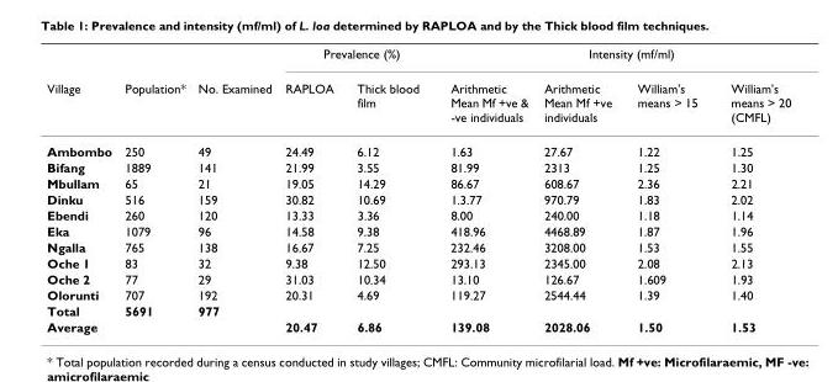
<table><thead><tr><td rowspan="2">Village</td><td rowspan="2">Population*</td><td rowspan="2">No. Examined</td><td colspan="2">Prevalence (%)</td><td colspan="4">Intensity (mf/ml)</td></tr><tr><td>RAPLOA</td><td>Thick blood film</td><td>Arithmetic Mean Mf +ve &amp; -ve individuals</td><td>Arithmetic Mean Mf +ve individuals</td><td>William&#x27;s means &gt; 15</td><td>William&#x27;s means &gt; 20 (CMFL)</td></tr></thead><tbody><tr><td>Ambombo</td><td>250</td><td>49</td><td>24.49</td><td>6.12</td><td>1.63</td><td>27.67</td><td>1.22</td><td>1.25</td></tr><tr><td>Bifang</td><td>1889</td><td>141</td><td>21.99</td><td>3.55</td><td>81.99</td><td>2313</td><td>1.25</td><td>1.30</td></tr><tr><td>Mbullam</td><td>65</td><td>21</td><td>19.05</td><td>14.29</td><td>86.67</td><td>608.67</td><td>2.36</td><td>2.21</td></tr><tr><td>Dinku</td><td>516</td><td>159</td><td>30.82</td><td>10.69</td><td>1.3.77</td><td>970.79</td><td>1.83</td><td>2.02</td></tr><tr><td>Ebendi</td><td>260</td><td>120</td><td>13.33</td><td>3.36</td><td>8.00</td><td>240.00</td><td>1.18</td><td>1.14</td></tr><tr><td>Eka</td><td>1079</td><td>96</td><td>14.58</td><td>9.38</td><td>418.96</td><td>4468.89</td><td>1.87</td><td>1.96</td></tr><tr><td>Ngalla</td><td>765</td><td>138</td><td>16.67</td><td>7.25</td><td>232.46</td><td>3208.00</td><td>1.53</td><td>1.55</td></tr><tr><td>Oche 1</td><td>83</td><td>32</td><td>9.38</td><td>12.50</td><td>293.13</td><td>2345.00</td><td>2.08</td><td>2.13</td></tr><tr><td>Oche 2</td><td>77</td><td>29</td><td>31.03</td><td>10.34</td><td>13.10</td><td>126.67</td><td>1.609</td><td>1.93</td></tr><tr><td>Olorunti</td><td>707</td><td>192</td><td>20.31</td><td>4.69</td><td>119.27</td><td>2544.44</td><td>1.39</td><td>1.40</td></tr><tr><td>Total</td><td>5691</td><td>977</td><td></td><td></td><td></td><td></td><td></td><td></td></tr><tr><td>Average</td><td></td><td></td><td>20.47</td><td>6.86</td><td>139.08</td><td>2028.06</td><td>1.50</td><td>1.53</td></tr></tbody></table>